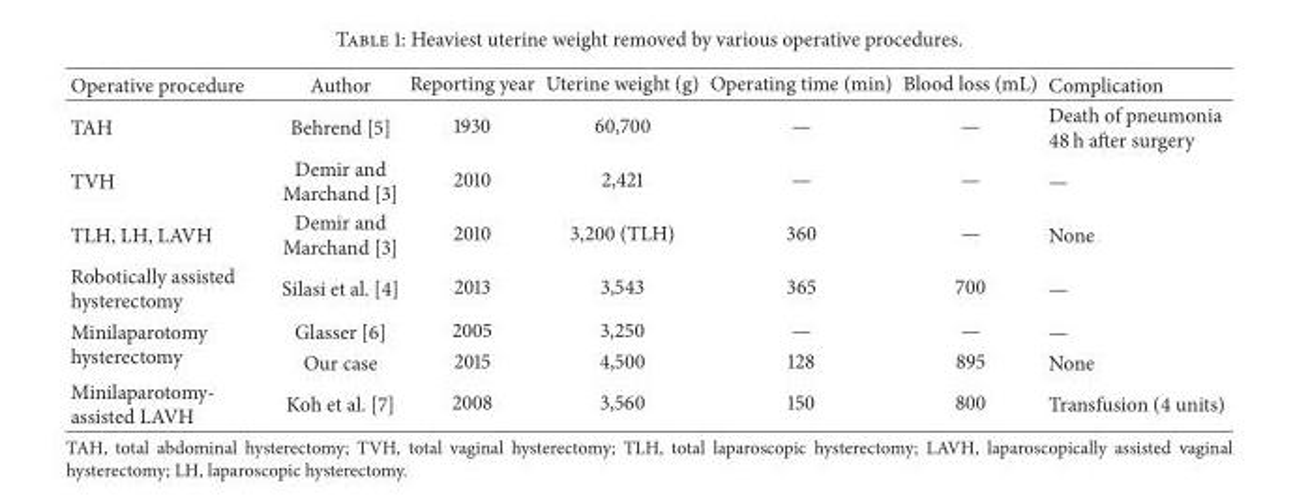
<table><thead><tr><td>Operative procedure</td><td>Author</td><td>Reporting year</td><td>Uterine weight (g)</td><td>Operating time (min)</td><td>Blood loss (mL)</td><td>Complication</td></tr></thead><tbody><tr><td>TAH</td><td>Behrend [5]</td><td>1930</td><td>60,700</td><td>—</td><td>—</td><td>Death of pneumonia 48 h after surgery</td></tr><tr><td>TVH</td><td>Demir and Marchand [3]</td><td>2010</td><td>2,421</td><td>—</td><td>—</td><td>—</td></tr><tr><td>TLH, LH, LAVH</td><td>Demir and Marchand [3]</td><td>2010</td><td>3,200 (TLH)</td><td>360</td><td>—</td><td>None</td></tr><tr><td>Robotically assisted hysterectomy</td><td>Silasi et al. [4]</td><td>2013</td><td>3,543</td><td>365</td><td>700</td><td>—</td></tr><tr><td rowspan="2">Minilaparotomy hysterectomy</td><td>Glasser [6]</td><td>2005</td><td>3,250</td><td>—</td><td>—</td><td>—</td></tr><tr><td>Our case</td><td>2015</td><td>4,500</td><td>128</td><td>895</td><td>None</td></tr><tr><td>Minilaparotomy- assisted LAVH</td><td>Koh et al. [7]</td><td>2008</td><td>3,560</td><td>150</td><td>800</td><td>Transfusion (4 units)</td></tr></tbody></table>